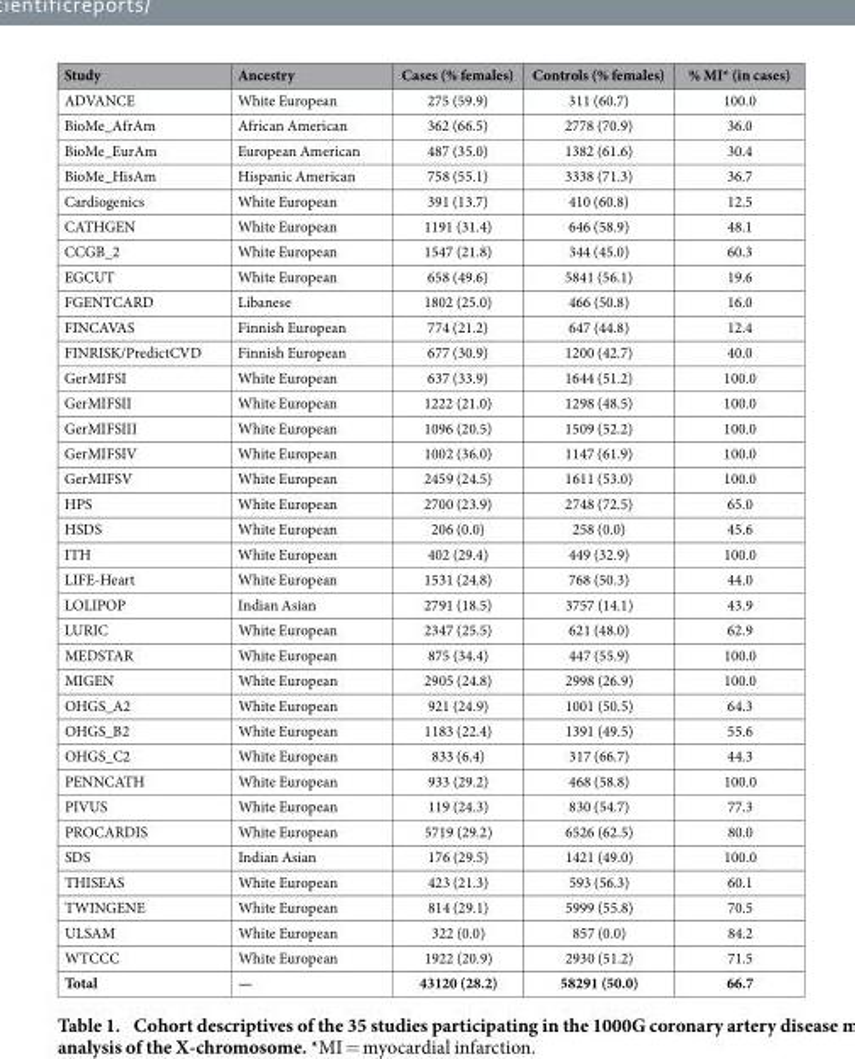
<table><thead><tr><td>Study</td><td>Ancestry</td><td>Cases (% females)</td><td>Controls (% females)</td><td>% MI* (in cases)</td></tr></thead><tbody><tr><td>ADVANCE</td><td>White European</td><td>275 (59.9)</td><td>311 (60.7)</td><td>100.0</td></tr><tr><td>BioMe_AfrAm</td><td>African American</td><td>362 (66.5)</td><td>2778 (70.9)</td><td>36.0</td></tr><tr><td>BioMe_EurAm</td><td>European American</td><td>487 (35.0)</td><td>1382 (61.6)</td><td>30.4</td></tr><tr><td>BioMe_HisAm</td><td>Hispanic American</td><td>758 (55.1)</td><td>3338 (71.3)</td><td>36.7</td></tr><tr><td>Cardiogenics</td><td>White European</td><td>391 (13.7)</td><td>410 (60.8)</td><td>12.5</td></tr><tr><td>CATHGEN</td><td>White European</td><td>1191 (31.4)</td><td>646 (58.9)</td><td>48.1</td></tr><tr><td>CCGB_2</td><td>White European</td><td>1547 (21.8)</td><td>344 (45.0)</td><td>60.3</td></tr><tr><td>EGCUT</td><td>White European</td><td>658 (49.6)</td><td>5841 (56.1)</td><td>19.6</td></tr><tr><td>FGENTCARD</td><td>Libanese</td><td>1802 (25.0)</td><td>466 (50.8)</td><td>16.0</td></tr><tr><td>FINCAVAS</td><td>Finnish European</td><td>774 (21.2)</td><td>647 (44.8)</td><td>12.4</td></tr><tr><td>FINRISK/PredictCVD</td><td>Finnish European</td><td>677 (30.9)</td><td>1200 (42.7)</td><td>40.0</td></tr><tr><td>GerMIFSI</td><td>White European</td><td>637 (33.9)</td><td>1644 (51.2)</td><td>100.0</td></tr><tr><td>GerMIFSII</td><td>White European</td><td>1222 (21.0)</td><td>1298 (48.5)</td><td>100.0</td></tr><tr><td>GerMIFSIII</td><td>White European</td><td>1096 (20.5)</td><td>1509 (52.2)</td><td>100.0</td></tr><tr><td>GerMIFSIV</td><td>White European</td><td>1002 (36.0)</td><td>1147 (61.9)</td><td>100.0</td></tr><tr><td>GerMIFSV</td><td>White European</td><td>2459 (24.5)</td><td>1611 (53.0)</td><td>100.0</td></tr><tr><td>HPS</td><td>White European</td><td>2700 (23.9)</td><td>2748 (72.5)</td><td>65.0</td></tr><tr><td>HSDS</td><td>White European</td><td>206 (0.0)</td><td>258 (0.0)</td><td>45.6</td></tr><tr><td>ITH</td><td>White European</td><td>402 (29.4)</td><td>449 (32.9)</td><td>100.0</td></tr><tr><td>LIFE-Heart</td><td>White European</td><td>1531 (24.8)</td><td>768 (50.3)</td><td>44.0</td></tr><tr><td>LOLIPOP</td><td>Indian Asian</td><td>2791 (18.5)</td><td>3757 (14.1)</td><td>43.9</td></tr><tr><td>LURIC</td><td>White European</td><td>2347 (25.5)</td><td>621 (48.0)</td><td>62.9</td></tr><tr><td>MEDSTAR</td><td>White European</td><td>875 (34.4)</td><td>447 (55.9)</td><td>100.0</td></tr><tr><td>MIGEN</td><td>White European</td><td>2905 (24.8)</td><td>2998 (26.9)</td><td>100.0</td></tr><tr><td>OHGS_A2</td><td>White European</td><td>921 (24.9)</td><td>1001 (50.5)</td><td>64.3</td></tr><tr><td>OHGS_B2</td><td>White European</td><td>1183 (22.4)</td><td>1391 (49.5)</td><td>55.6</td></tr><tr><td>OHGS_C2</td><td>White European</td><td>833 (6.4)</td><td>317 (66.7)</td><td>44.3</td></tr><tr><td>PENNCATH</td><td>White European</td><td>933 (29.2)</td><td>468 (58.8)</td><td>100.0</td></tr><tr><td>PIVUS</td><td>White European</td><td>119 (24.3)</td><td>830 (54.7)</td><td>77.3</td></tr><tr><td>PROCARDIS</td><td>White European</td><td>5719 (29.2)</td><td>6526 (62.5)</td><td>80.0</td></tr><tr><td>SDS</td><td>Indian Asian</td><td>176 (29.5)</td><td>1421 (49.0)</td><td>100.0</td></tr><tr><td>THISEAS</td><td>White European</td><td>423 (21.3)</td><td>593 (56.3)</td><td>60.1</td></tr><tr><td>TWINGENE</td><td>White European</td><td>814 (29.1)</td><td>5999 (55.8)</td><td>70.5</td></tr><tr><td>ULSAM</td><td>White European</td><td>322 (0.0)</td><td>857 (0.0)</td><td>84.2</td></tr><tr><td>WTCCC</td><td>White European</td><td>1922 (20.9)</td><td>2930 (51.2)</td><td>71.5</td></tr><tr><td>Total</td><td>—</td><td>43120 (28.2)</td><td>58291 (50.0)</td><td>66.7</td></tr></tbody></table>